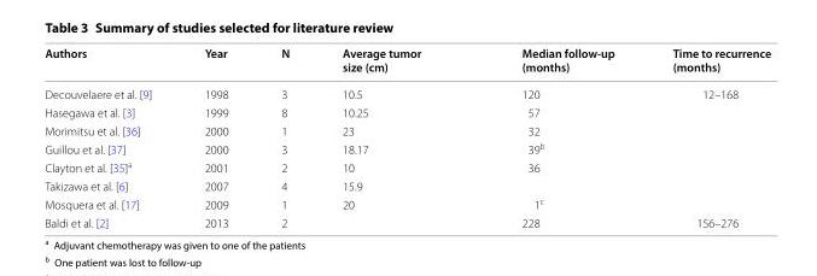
<table><thead><tr><td>Authors</td><td>Year</td><td>N</td><td>Average tumor size (cm)</td><td>Median follow-up (months)</td><td>Time to recurrence (months)</td></tr></thead><tbody><tr><td>Decouvelaere et al. [9]</td><td>1998</td><td>3</td><td>10.5</td><td>120</td><td>12–168</td></tr><tr><td>Hasegawa et al. [3]</td><td>1999</td><td>8</td><td>10.25</td><td>57</td><td></td></tr><tr><td>Morimitsu et al. [36]</td><td>2000</td><td>1</td><td>23</td><td>32</td><td></td></tr><tr><td>Guillou et al. [37]</td><td>2000</td><td>3</td><td>18.17</td><td>39<sup>b</sup></td><td></td></tr><tr><td>Clayton et al. [35]<sup>a</sup></td><td>2001</td><td>2</td><td>10</td><td>36</td><td></td></tr><tr><td>Takizawa et al. [6]</td><td>2007</td><td>4</td><td>15.9</td><td></td><td></td></tr><tr><td>Mosquera et al. [17]</td><td>2009</td><td>1</td><td>20</td><td>1<sup>c</sup></td><td></td></tr><tr><td>Baldi et al. [2]</td><td>2013</td><td>2</td><td></td><td>228</td><td>156–276</td></tr></tbody></table>